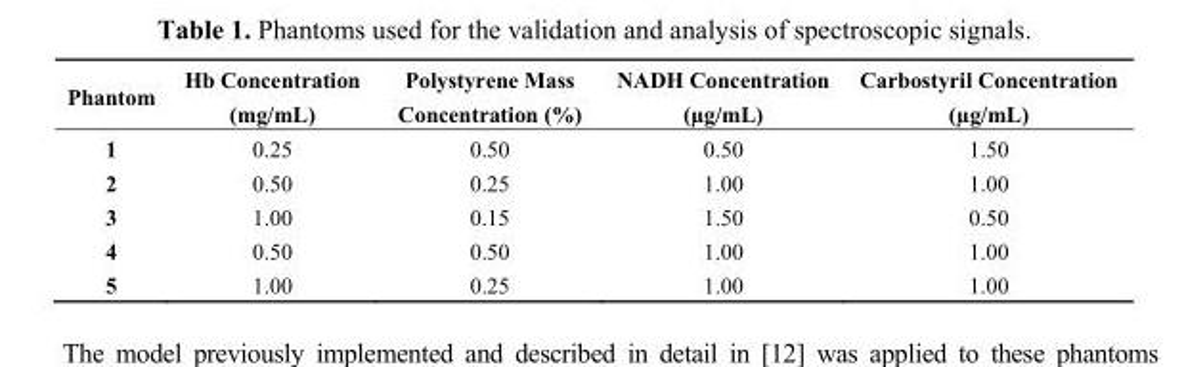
<table><tbody><tr><td>Phantom</td><td>Hb Concentration (mg/mL)</td><td>Polystyrene Mass Concentration (%)</td><td>NADH Concentration (µg/mL)</td><td>Carbostyril Concentration (µg/mL)</td></tr><tr><td>1</td><td>0.25</td><td>0.50</td><td>0.50</td><td>1.50</td></tr><tr><td>2</td><td>0.50</td><td>0.25</td><td>1.00</td><td>1.00</td></tr><tr><td>3</td><td>1.00</td><td>0.15</td><td>1.50</td><td>0.50</td></tr><tr><td>4</td><td>0.50</td><td>0.50</td><td>1.00</td><td>1.00</td></tr><tr><td>5</td><td>1.00</td><td>0.25</td><td>1.00</td><td>1.00</td></tr></tbody></table>